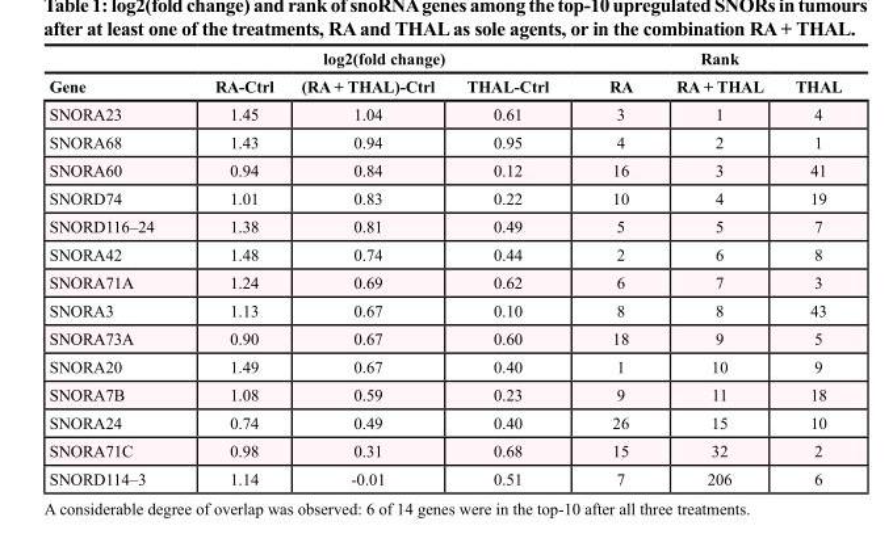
<table><thead><tr><td rowspan="2">Gene</td><td colspan="3">log2(fold change)</td><td colspan="3">Rank</td></tr><tr><td>RA-Ctrl</td><td>(RA + THAL)-Ctrl</td><td>THAL-Ctrl</td><td>RA</td><td>RA + THAL</td><td>THAL</td></tr></thead><tbody><tr><td>SNORA23</td><td>1.45</td><td>1.04</td><td>0.61</td><td>3</td><td>1</td><td>4</td></tr><tr><td>SNORA68</td><td>1.43</td><td>0.94</td><td>0.95</td><td>4</td><td>2</td><td>1</td></tr><tr><td>SNORA60</td><td>0.94</td><td>0.84</td><td>0.12</td><td>16</td><td>3</td><td>41</td></tr><tr><td>SNORD74</td><td>1.01</td><td>0.83</td><td>0.22</td><td>10</td><td>4</td><td>19</td></tr><tr><td>SNORD116–24</td><td>1.38</td><td>0.81</td><td>0.49</td><td>5</td><td>5</td><td>7</td></tr><tr><td>SNORA42</td><td>1.48</td><td>0.74</td><td>0.44</td><td>2</td><td>6</td><td>8</td></tr><tr><td>SNORA71A</td><td>1.24</td><td>0.69</td><td>0.62</td><td>6</td><td>7</td><td>3</td></tr><tr><td>SNORA3</td><td>1.13</td><td>0.67</td><td>0.10</td><td>8</td><td>8</td><td>43</td></tr><tr><td>SNORA73A</td><td>0.90</td><td>0.67</td><td>0.60</td><td>18</td><td>9</td><td>5</td></tr><tr><td>SNORA20</td><td>1.49</td><td>0.67</td><td>0.40</td><td>1</td><td>10</td><td>9</td></tr><tr><td>SNORA7B</td><td>1.08</td><td>0.59</td><td>0.23</td><td>9</td><td>11</td><td>18</td></tr><tr><td>SNORA24</td><td>0.74</td><td>0.49</td><td>0.40</td><td>26</td><td>15</td><td>10</td></tr><tr><td>SNORA71C</td><td>0.98</td><td>0.31</td><td>0.68</td><td>15</td><td>32</td><td>2</td></tr><tr><td>SNORD114–3</td><td>1.14</td><td>-0.01</td><td>0.51</td><td>7</td><td>206</td><td>6</td></tr></tbody></table>